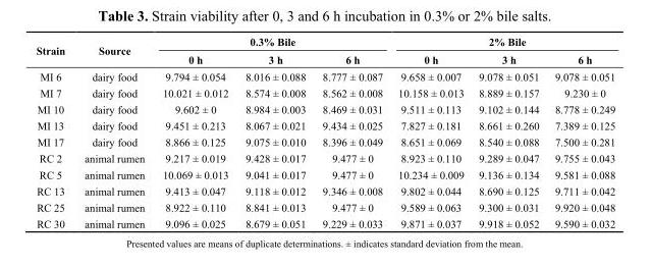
<table><thead><tr><td rowspan="2">Strain</td><td rowspan="2">Source</td><td colspan="3">0.3% Bile</td><td colspan="3">2% Bile</td></tr><tr><td>0 h</td><td>3 h</td><td>6 h</td><td>0 h</td><td>3 h</td><td>6 h</td></tr></thead><tbody><tr><td>MI 6</td><td>dairy food</td><td>9.794 ± 0.054</td><td>8.016 ± 0.088</td><td>8.777 ± 0.087</td><td>9.658 ± 0.007</td><td>9.078 ± 0.051</td><td>9.078 ± 0.051</td></tr><tr><td>MI 7</td><td>dairy food</td><td>10.021 ± 0.012</td><td>8.574 ± 0.008</td><td>8.562 ± 0.008</td><td>10.158 ± 0.013</td><td>8.889 ± 0.157</td><td>9.230 ± 0</td></tr><tr><td>MI 10</td><td>dairy food</td><td>9.602 ± 0</td><td>8.984 ± 0.003</td><td>8.469 ± 0.031</td><td>9.511 ± 0.113</td><td>9.102 ± 0.144</td><td>8.778 ± 0.249</td></tr><tr><td>MI 13</td><td>dairy food</td><td>9.451 ± 0.213</td><td>8.067 ± 0.021</td><td>9.434 ± 0.025</td><td>7.827 ± 0.181</td><td>8.661 ± 0.260</td><td>7.389 ± 0.125</td></tr><tr><td>MI 17</td><td>dairy food</td><td>8.866 ± 0.125</td><td>9.075 ± 0.010</td><td>8.396 ± 0.049</td><td>8.651 ± 0.069</td><td>8.540 ± 0.088</td><td>7.500 ± 0.281</td></tr><tr><td>RC 2</td><td>animal rumen</td><td>9.217 ± 0.019</td><td>9.428 ± 0.017</td><td>9.477 ± 0</td><td>8.923 ± 0.110</td><td>9.289 ± 0.047</td><td>9.755 ± 0.043</td></tr><tr><td>RC 5</td><td>animal rumen</td><td>10.069 ± 0.013</td><td>9.041 ± 0.017</td><td>9.477 ± 0</td><td>10.234 ± 0.009</td><td>9.136 ± 0.134</td><td>9.581 ± 0.088</td></tr><tr><td>RC 13</td><td>animal rumen</td><td>9.413 ± 0.047</td><td>9.118 ± 0.012</td><td>9.346 ± 0.008</td><td>9.802 ± 0.044</td><td>8.690 ± 0.125</td><td>9.711 ± 0.042</td></tr><tr><td>RC 25</td><td>animal rumen</td><td>8.922 ± 0.110</td><td>8.841 ± 0.013</td><td>9.477 ± 0</td><td>9.589 ± 0.063</td><td>9.300 ± 0.031</td><td>9.920 ± 0.048</td></tr><tr><td>RC 30</td><td>animal rumen</td><td>9.096 ± 0.025</td><td>8.679 ± 0.051</td><td>9.229 ± 0.033</td><td>9.871 ± 0.037</td><td>9.918 ± 0.052</td><td>9.590 ± 0.032</td></tr></tbody></table>